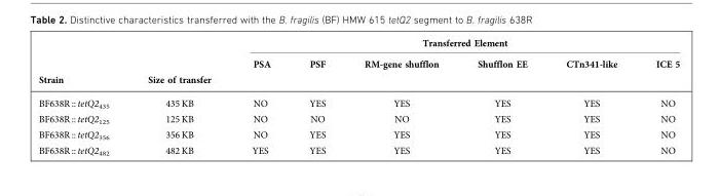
<table><thead><tr><td rowspan="3">Strain</td><td rowspan="3">Size of transfer</td><td colspan="6">Transferred Element</td></tr><tr><td rowspan="2">PSA</td><td rowspan="2">PSF</td><td rowspan="2">RM-gene shufflon</td><td rowspan="2">Shufflon EE</td><td rowspan="2">CTn341-like</td><td rowspan="2">ICE 5</td></tr><tr></tr></thead><tbody><tr><td>BF638R :: tetQ2<sub>435</sub></td><td>435 KB</td><td>NO</td><td>YES</td><td>YES</td><td>YES</td><td>YES</td><td>NO</td></tr><tr><td>BF638R :: tetQ2<sub>125</sub></td><td>125 KB</td><td>NO</td><td>NO</td><td>NO</td><td>YES</td><td>YES</td><td>NO</td></tr><tr><td>BF638R :: tetQ2<sub>356</sub></td><td>356 KB</td><td>NO</td><td>YES</td><td>YES</td><td>YES</td><td>YES</td><td>NO</td></tr><tr><td>BF638R :: tetQ2<sub>482</sub></td><td>482 KB</td><td>YES</td><td>YES</td><td>YES</td><td>YES</td><td>YES</td><td>NO</td></tr></tbody></table>